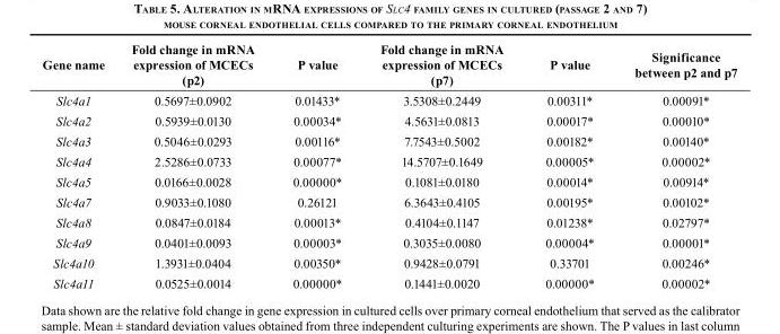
<table><thead><tr><td>Gene name</td><td>Fold change in mRNA expression of MCECs (p2)</td><td>P value</td><td>Fold change in mRNA expression of MCECs (p7)</td><td>P value</td><td>Significance between p2 and p7</td></tr></thead><tbody><tr><td>Slc4a1</td><td>0.5697±0.0902</td><td>0.01433*</td><td>3.5308±0.2449</td><td>0.00311*</td><td>0.00091*</td></tr><tr><td>Slc4a2</td><td>0.5939±0.0130</td><td>0.00034*</td><td>4.5631±0.0813</td><td>0.00017*</td><td>0.00010*</td></tr><tr><td>Slc4a3</td><td>0.5046±0.0293</td><td>0.00116*</td><td>7.7543±0.5002</td><td>0.00182*</td><td>0.00140*</td></tr><tr><td>Slc4a4</td><td>2.5286±0.0733</td><td>0.00077*</td><td>14.5707±0.1649</td><td>0.00005*</td><td>0.00002*</td></tr><tr><td>Slc4a5</td><td>0.0166±0.0028</td><td>0.00000*</td><td>0.1081±0.0180</td><td>0.00014*</td><td>0.00914*</td></tr><tr><td>Slc4a7</td><td>0.9033±0.1080</td><td>0.26121</td><td>6.3643±0.4105</td><td>0.00195*</td><td>0.00102*</td></tr><tr><td>Slc4a8</td><td>0.0847±0.0184</td><td>0.00013*</td><td>0.4104±0.1147</td><td>0.01238*</td><td>0.02797*</td></tr><tr><td>Slc4a9</td><td>0.0401±0.0093</td><td>0.00003*</td><td>0.3035±0.0080</td><td>0.00004*</td><td>0.00001*</td></tr><tr><td>Slc4a10</td><td>1.3931±0.0404</td><td>0.00350*</td><td>0.9428±0.0791</td><td>0.33701</td><td>0.00246*</td></tr><tr><td>Slc4a11</td><td>0.0525±0.0014</td><td>0.00000*</td><td>0.1441±0.0020</td><td>0.00000*</td><td>0.00002*</td></tr></tbody></table>